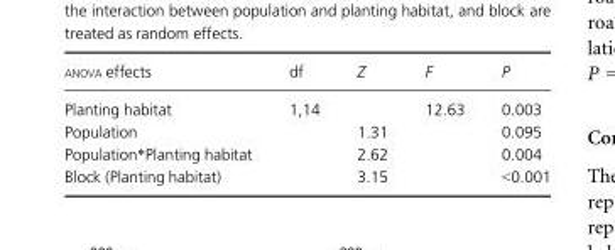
<table><thead><tr><td>ANOVA effects</td><td>df</td><td>Z</td><td>F</td><td>P</td></tr></thead><tbody><tr><td>Planting habitat</td><td>1,14</td><td></td><td>12.63</td><td>0.003</td></tr><tr><td>Population</td><td></td><td>1.31</td><td></td><td>0.095</td></tr><tr><td>Population*Planting habitat</td><td></td><td>2.62</td><td></td><td>0.004</td></tr><tr><td>Block (Planting habitat)</td><td></td><td>3.15</td><td></td><td>&lt;0.001</td></tr></tbody></table>